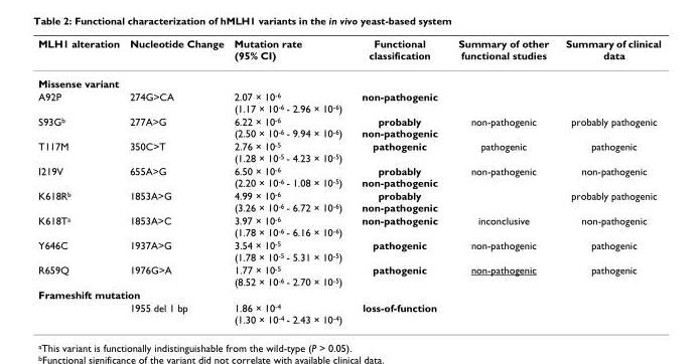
<table><thead><tr><td>MLH1 alteration</td><td>Nucleotide Change</td><td>Mutation rate (95% CI)</td><td>Functional classification</td><td>Summary of other functional studies</td><td>Summary of clinical data</td></tr></thead><tbody><tr><td colspan="6">Missense variant</td></tr><tr><td>A92P</td><td>274G&gt;CA</td><td>2.07 × 10<sup>-6</sup> (1.17 × 10<sup>-6</sup> - 2.96 × 10<sup>-6</sup>)</td><td>non-pathogenic</td><td></td><td></td></tr><tr><td>S93G<sup>b</sup></td><td>277A&gt;G</td><td>6.22 × 10<sup>-6</sup> (2.50 × 10<sup>-6</sup> - 9.94 × 10<sup>-6</sup>)</td><td>probably non-pathogenic</td><td>non-pathogenic</td><td>probably pathogenic</td></tr><tr><td>T117M</td><td>350C&gt;T</td><td>2.76 × 10<sup>-5</sup> (1.28 × 10<sup>-5</sup> - 4.23 × 10<sup>-5</sup>)</td><td>pathogenic</td><td>pathogenic</td><td>pathogenic</td></tr><tr><td>I219V</td><td>655A&gt;G</td><td>6.50 × 10<sup>-6</sup> (2.20 × 10<sup>-6</sup> - 1.08 × 10<sup>-5</sup>)</td><td>probably non-pathogenic</td><td>non-pathogenic</td><td>non-pathogenic</td></tr><tr><td>K618R<sup>b</sup></td><td>1853A&gt;G</td><td>4.99 × 10<sup>-6</sup> (3.26 × 10<sup>-6</sup> - 6.72 × 10<sup>-6</sup>)</td><td>probably non-pathogenic</td><td></td><td>probably pathogenic</td></tr><tr><td>K618T<sup>a</sup></td><td>1853A&gt;C</td><td>3.97 × 10<sup>-6</sup> (1.78 × 10<sup>-6</sup> - 6.16 × 10<sup>-6</sup>)</td><td>non-pathogenic</td><td>inconclusive</td><td>non-pathogenic</td></tr><tr><td>Y646C</td><td>1937A&gt;G</td><td>3.54 × 10<sup>-5</sup> (1.78 × 10<sup>-5</sup> - 5.31 × 10<sup>-5</sup>)</td><td>pathogenic</td><td>non-pathogenic</td><td>pathogenic</td></tr><tr><td>R659Q</td><td>1976G&gt;A</td><td>1.77 × 10<sup>-5</sup> (8.52 × 10<sup>-6</sup> - 2.70 × 10<sup>-5</sup>)</td><td>pathogenic</td><td>non-pathogenic</td><td>pathogenic</td></tr><tr><td colspan="6">Frameshift mutation</td></tr><tr><td></td><td>1955 del 1 bp</td><td>1.86 × 10<sup>-4</sup> (1.30 × 10<sup>-4</sup> - 2.43 × 10<sup>-4</sup>)</td><td>loss-of-function</td><td></td><td></td></tr></tbody></table>